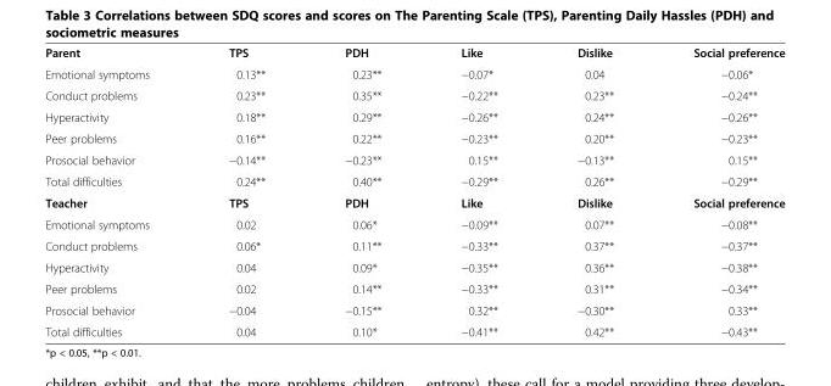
<table><tbody><tr><td>Parent</td><td>TPS</td><td>PDH</td><td>Like</td><td>Dislike</td><td>Social preference</td></tr><tr><td>Emotional symptoms</td><td>0.13**</td><td>0.23**</td><td>−0.07*</td><td>0.04</td><td>−0.06*</td></tr><tr><td>Conduct problems</td><td>0.23**</td><td>0.35**</td><td>−0.22**</td><td>0.23**</td><td>−0.24**</td></tr><tr><td>Hyperactivity</td><td>0.18**</td><td>0.29**</td><td>−0.26**</td><td>0.24**</td><td>−0.26**</td></tr><tr><td>Peer problems</td><td>0.16**</td><td>0.22**</td><td>−0.23**</td><td>0.20**</td><td>−0.23**</td></tr><tr><td>Prosocial behavior</td><td>−0.14**</td><td>−0.23**</td><td>0.15**</td><td>−0.13**</td><td>0.15**</td></tr><tr><td>Total difficulties</td><td>0.24**</td><td>0.40**</td><td>−0.29**</td><td>0.26**</td><td>−0.29**</td></tr><tr><td>Teacher</td><td>TPS</td><td>PDH</td><td>Like</td><td>Dislike</td><td>Social preference</td></tr><tr><td>Emotional symptoms</td><td>0.02</td><td>0.06*</td><td>−0.09**</td><td>0.07**</td><td>−0.08**</td></tr><tr><td>Conduct problems</td><td>0.06*</td><td>0.11**</td><td>−0.33**</td><td>0.37**</td><td>−0.37**</td></tr><tr><td>Hyperactivity</td><td>0.04</td><td>0.09*</td><td>−0.35**</td><td>0.36**</td><td>−0.38**</td></tr><tr><td>Peer problems</td><td>0.02</td><td>0.14**</td><td>−0.33**</td><td>0.31**</td><td>−0.34**</td></tr><tr><td>Prosocial behavior</td><td>−0.04</td><td>−0.15**</td><td>0.32**</td><td>−0.30**</td><td>0.33**</td></tr><tr><td>Total difficulties</td><td>0.04</td><td>0.10*</td><td>−0.41**</td><td>0.42**</td><td>−0.43**</td></tr></tbody></table>